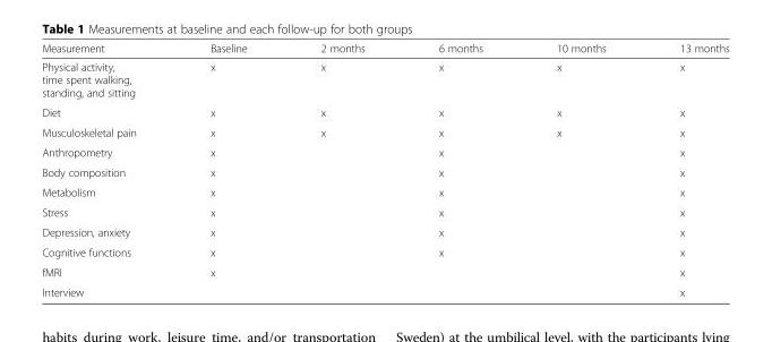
<table><thead><tr><td>Measurement</td><td>Baseline</td><td>2 months</td><td>6 months</td><td>10 months</td><td>13 months</td></tr></thead><tbody><tr><td>Physical activity, time spent walking, standing, and sitting</td><td>x</td><td>x</td><td>x</td><td>x</td><td>x</td></tr><tr><td>Diet</td><td>x</td><td>x</td><td>x</td><td>x</td><td>x</td></tr><tr><td>Musculoskeletal pain</td><td>x</td><td>x</td><td>x</td><td>x</td><td>x</td></tr><tr><td>Anthropometry</td><td>x</td><td></td><td>x</td><td></td><td>x</td></tr><tr><td>Body composition</td><td>x</td><td></td><td>x</td><td></td><td>x</td></tr><tr><td>Metabolism</td><td>x</td><td></td><td>x</td><td></td><td>x</td></tr><tr><td>Stress</td><td>x</td><td></td><td>x</td><td></td><td>x</td></tr><tr><td>Depression, anxiety</td><td>x</td><td></td><td>x</td><td></td><td>x</td></tr><tr><td>Cognitive functions</td><td>x</td><td></td><td>x</td><td></td><td>x</td></tr><tr><td>fMRI</td><td>x</td><td></td><td></td><td></td><td>x</td></tr><tr><td>Interview</td><td></td><td></td><td></td><td></td><td>x</td></tr></tbody></table>